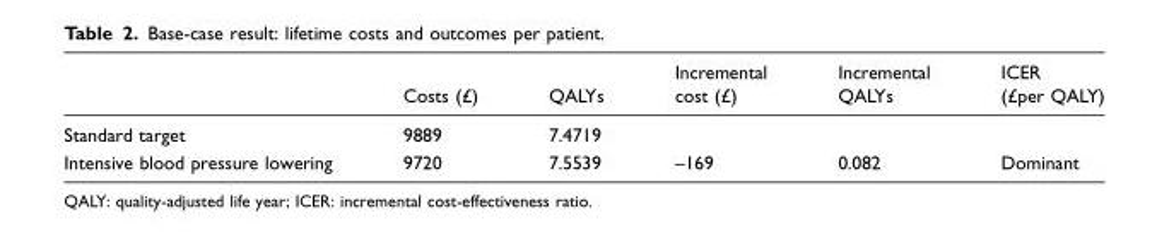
<table><thead><tr><td></td><td>Costs (£)</td><td>QALYs</td><td>Incremental cost (£)</td><td>Incremental QALYs</td><td>ICER (£per QALY)</td></tr></thead><tbody><tr><td>Standard target</td><td>9889</td><td>7.4719</td><td></td><td></td><td></td></tr><tr><td>Intensive blood pressure lowering</td><td>9720</td><td>7.5539</td><td>–169</td><td>0.082</td><td>Dominant</td></tr></tbody></table>